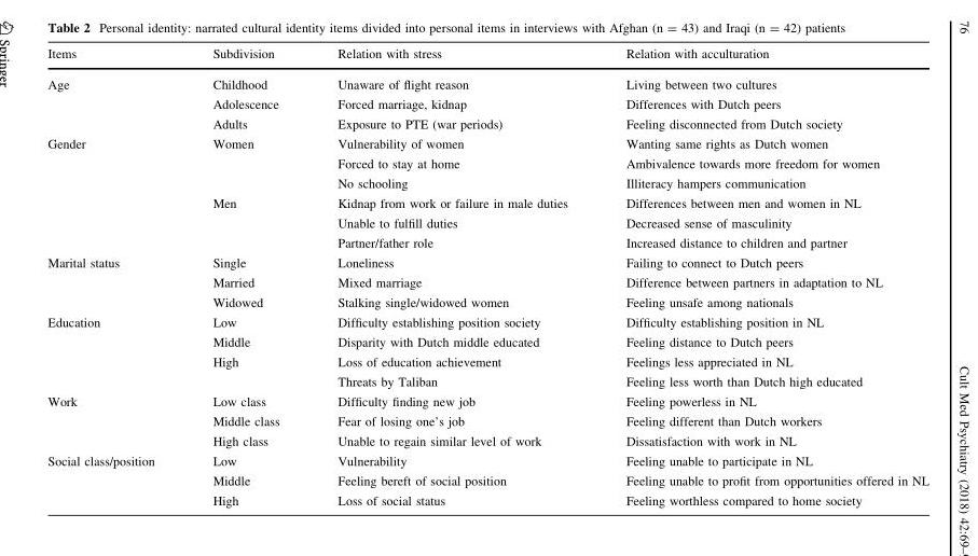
<table><thead><tr><td>Items</td><td>Subdivision</td><td>Relation with stress</td><td>Relation with acculturation</td></tr></thead><tbody><tr><td rowspan="3">Age</td><td>Childhood</td><td>Unaware of flight reason</td><td>Living between two cultures</td></tr><tr><td>Adolescence</td><td>Forced marriage, kidnap</td><td>Differences with Dutch peers</td></tr><tr><td>Adults</td><td>Exposure to PTE (war periods)</td><td>Feeling disconnected from Dutch society</td></tr><tr><td rowspan="2">Gender</td><td>Women</td><td>Vulnerability of women Forced to stay at home No schooling</td><td>Wanting same rights as Dutch women Ambivalence towards more freedom for women Illiteracy hampers communication</td></tr><tr><td>Men</td><td>Kidnap from work or failure in male duties Unable to fulfill duties Partner/father role</td><td>Differences between men and women in NL Decreased sense of masculinity Increased distance to children and partner</td></tr><tr><td>Marital status</td><td>Single Married Widowed</td><td>Loneliness Mixed marriage Stalking single/widowed women</td><td>Failing to connect to Dutch peers Difference between partners in adaptation to NL Feeling unsafe among nationals</td></tr><tr><td>Education</td><td>Low Middle High</td><td>Difficulty establishing position society Disparity with Dutch middle educated Loss of education achievement Threats by Taliban</td><td>Difficulty establishing position in NL Feeling distance to Dutch peers Feelings less appreciated in NL Feeling less worth than Dutch high educated</td></tr><tr><td>Work</td><td>Low class Middle class High class</td><td>Difficulty finding new job Fear of losing one’s job Unable to regain similar level of work</td><td>Feeling powerless in NL Feeling different than Dutch workers Dissatisfaction with work in NL</td></tr><tr><td>Social class/position</td><td>Low Middle High</td><td>Vulnerability Feeling bereft of social position Loss of social status</td><td>Feeling unable to participate in NL Feeling unable to profit from opportunities offered in NL Feeling worthless compared to home society</td></tr></tbody></table>